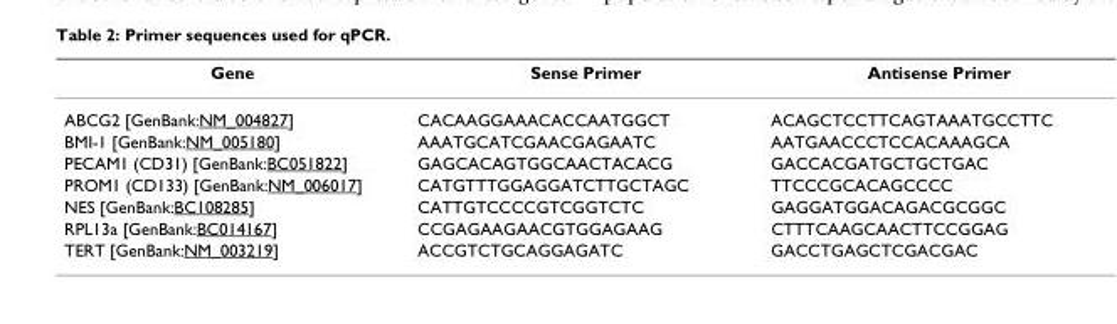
<table><thead><tr><td>Gene</td><td>Sense Primer</td><td>Antisense Primer</td></tr></thead><tbody><tr><td>ABCG2 [GenBank:NM_004827]</td><td>CACAAGGAAACACCAATGGCT</td><td>ACAGCTCCTTCAGTAAATGCCTTC</td></tr><tr><td>BMI-1 [GenBank:NM_005180]</td><td>AAATGCATCGAACGAGAATC</td><td>AATGAACCCTCCACAAAGCA</td></tr><tr><td>PECAM1 (CD31) [GenBank:BC051822]</td><td>GAGCACAGTGGCAACTACACG</td><td>GACCACGATGCTGCTGAC</td></tr><tr><td>PROM1 (CD133) [GenBank:NM_006017]</td><td>CATGTTTGGAGGATCTTGCTAGC</td><td>TTCCCGCACAGCCCC</td></tr><tr><td>NES [GenBank:BC108285]</td><td>CATTGTCCCCGTCGGTCTC</td><td>GAGGATGGACAGACGCGGC</td></tr><tr><td>RPL13a [GenBank:BC014167]</td><td>CCGAGAAGAACGTGGAGAAG</td><td>CTTTCAAGCAACTTCCGGAG</td></tr><tr><td>TERT [GenBank:NM_003219]</td><td>ACCGTCTGCAGGAGATC</td><td>GACCTGAGCTCGACGAC</td></tr></tbody></table>